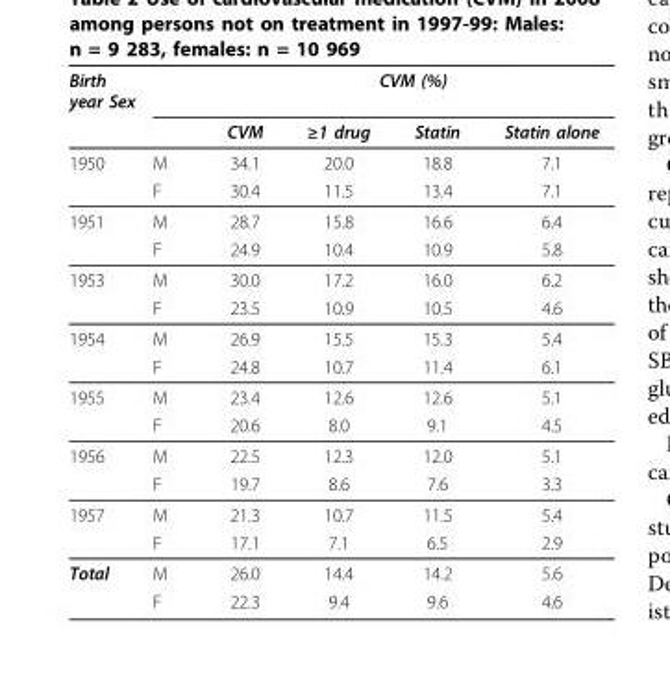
<table><thead><tr><td colspan="2">Birth year Sex</td><td colspan="4">CVM (%)</td></tr><tr><td></td><td></td><td>CVM</td><td>≥1 drug</td><td>Statin</td><td>Statin alone</td></tr></thead><tbody><tr><td rowspan="2">1950</td><td>M</td><td>34.1</td><td>20.0</td><td>18.8</td><td>7.1</td></tr><tr><td>F</td><td>30.4</td><td>11.5</td><td>13.4</td><td>7.1</td></tr><tr><td rowspan="2">1951</td><td>M</td><td>28.7</td><td>15.8</td><td>16.6</td><td>6.4</td></tr><tr><td>F</td><td>24.9</td><td>10.4</td><td>10.9</td><td>5.8</td></tr><tr><td rowspan="2">1953</td><td>M</td><td>30.0</td><td>17.2</td><td>16.0</td><td>6.2</td></tr><tr><td>F</td><td>23.5</td><td>10.9</td><td>10.5</td><td>4.6</td></tr><tr><td rowspan="2">1954</td><td>M</td><td>26.9</td><td>15.5</td><td>15.3</td><td>5.4</td></tr><tr><td>F</td><td>24.8</td><td>10.7</td><td>11.4</td><td>6.1</td></tr><tr><td rowspan="2">1955</td><td>M</td><td>23.4</td><td>12.6</td><td>12.6</td><td>5.1</td></tr><tr><td>F</td><td>20.6</td><td>8.0</td><td>9.1</td><td>4.5</td></tr><tr><td rowspan="2">1956</td><td>M</td><td>22.5</td><td>12.3</td><td>12.0</td><td>5.1</td></tr><tr><td>F</td><td>19.7</td><td>8.6</td><td>7.6</td><td>3.3</td></tr><tr><td rowspan="2">1957</td><td>M</td><td>21.3</td><td>10.7</td><td>11.5</td><td>5.4</td></tr><tr><td>F</td><td>17.1</td><td>7.1</td><td>6.5</td><td>2.9</td></tr><tr><td rowspan="2">Total</td><td>M</td><td>26.0</td><td>14.4</td><td>14.2</td><td>5.6</td></tr><tr><td>F</td><td>22.3</td><td>9.4</td><td>9.6</td><td>4.6</td></tr></tbody></table>